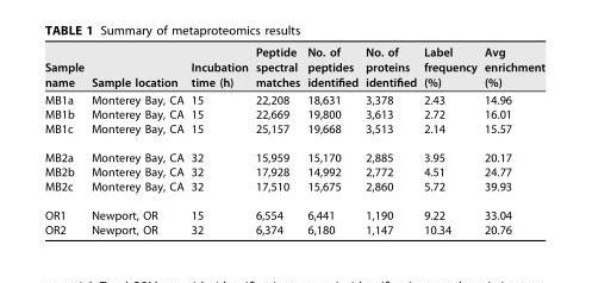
<table><thead><tr><td>Sample name</td><td>Sample location</td><td>Incubation time (h)</td><td>Peptide spectral matches</td><td>No. of peptides identified</td><td>No. of proteins identified</td><td>Label frequency (%)</td><td>Avg enrichment (%)</td></tr></thead><tbody><tr><td>MB1a</td><td>Monterey Bay, CA</td><td>15</td><td>22,208</td><td>18,631</td><td>3,378</td><td>2.43</td><td>14.96</td></tr><tr><td>MB1b</td><td>Monterey Bay, CA</td><td>15</td><td>22,669</td><td>19,800</td><td>3,613</td><td>2.72</td><td>16.01</td></tr><tr><td>MB1c</td><td>Monterey Bay, CA</td><td>15</td><td>25,157</td><td>19,668</td><td>3,513</td><td>2.14</td><td>15.57</td></tr><tr><td>MB2a</td><td>Monterey Bay, CA</td><td>32</td><td>15,959</td><td>15,170</td><td>2,885</td><td>3.95</td><td>20.17</td></tr><tr><td>MB2b</td><td>Monterey Bay, CA</td><td>32</td><td>17,928</td><td>14,992</td><td>2,772</td><td>4.51</td><td>24.77</td></tr><tr><td>MB2c</td><td>Monterey Bay, CA</td><td>32</td><td>17,510</td><td>15,675</td><td>2,860</td><td>5.72</td><td>39.93</td></tr><tr><td>OR1</td><td>Newport, OR</td><td>15</td><td>6,554</td><td>6,441</td><td>1,190</td><td>9.22</td><td>33.04</td></tr><tr><td>OR2</td><td>Newport, OR</td><td>32</td><td>6,374</td><td>6,180</td><td>1,147</td><td>10.34</td><td>20.76</td></tr></tbody></table>